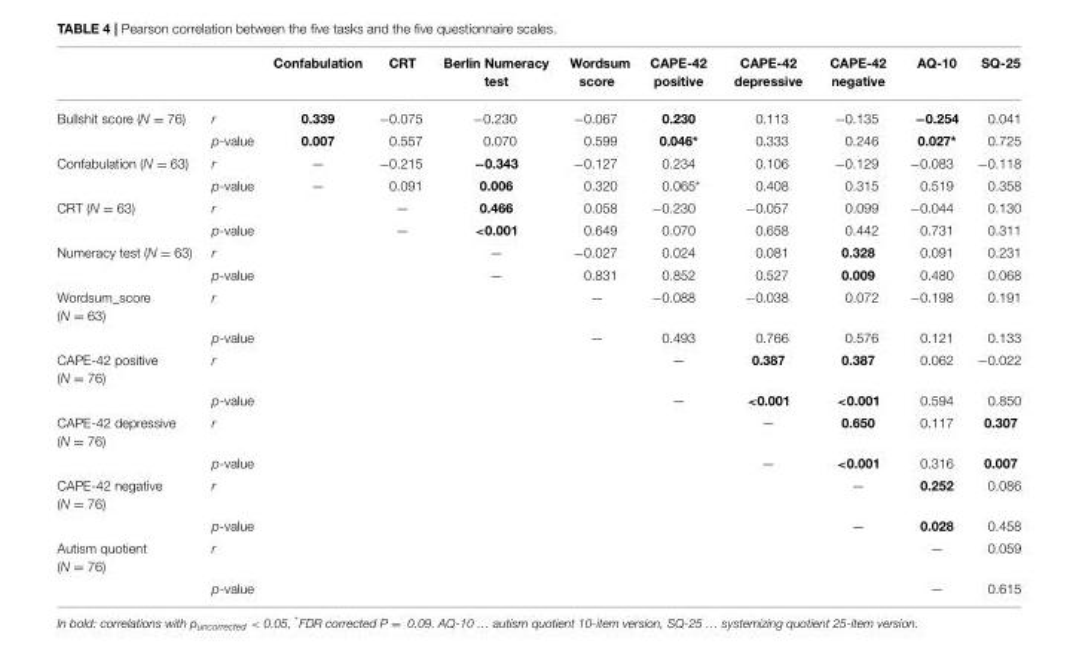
<table><thead><tr><td></td><td></td><td>Confabulation</td><td>CRT</td><td>Berlin Numeracy test</td><td>Wordsum score</td><td>CAPE-42 positive</td><td>CAPE-42 depressive</td><td>CAPE-42 negative</td><td>AQ-10</td><td>SQ-25</td></tr></thead><tbody><tr><td rowspan="2">Bullshit score (N = 76)</td><td>r</td><td>0.339</td><td>−0.075</td><td>−0.230</td><td>−0.067</td><td>0.230</td><td>0.113</td><td>−0.135</td><td>−0.254</td><td>0.041</td></tr><tr><td>p-value</td><td>0.007</td><td>0.557</td><td>0.070</td><td>0.599</td><td>0.046*</td><td>0.333</td><td>0.246</td><td>0.027*</td><td>0.725</td></tr><tr><td rowspan="2">Confabulation (N = 63)</td><td>r</td><td>—</td><td>−0.215</td><td>−0.343</td><td>−0.127</td><td>0.234</td><td>0.106</td><td>−0.129</td><td>−0.083</td><td>−0.118</td></tr><tr><td>p-value</td><td>—</td><td>0.091</td><td>0.006</td><td>0.320</td><td>0.065*</td><td>0.408</td><td>0.315</td><td>0.519</td><td>0.358</td></tr><tr><td rowspan="2">CRT (N = 63)</td><td>r</td><td></td><td>—</td><td>0.466</td><td>0.058</td><td>−0.230</td><td>−0.057</td><td>0.099</td><td>−0.044</td><td>0.130</td></tr><tr><td>p-value</td><td></td><td>—</td><td>&lt;0.001</td><td>0.649</td><td>0.070</td><td>0.658</td><td>0.442</td><td>0.731</td><td>0.311</td></tr><tr><td rowspan="2">Numeracy test (N = 63)</td><td>r</td><td></td><td></td><td>—</td><td>−0.027</td><td>0.024</td><td>0.081</td><td>0.328</td><td>0.091</td><td>0.231</td></tr><tr><td>p-value</td><td></td><td></td><td>—</td><td>0.831</td><td>0.852</td><td>0.527</td><td>0.009</td><td>0.480</td><td>0.068</td></tr><tr><td rowspan="2">Wordsum_score (N = 63)</td><td>r</td><td></td><td></td><td></td><td>—</td><td>−0.088</td><td>−0.038</td><td>0.072</td><td>−0.198</td><td>0.191</td></tr><tr><td>p-value</td><td></td><td></td><td></td><td>—</td><td>0.493</td><td>0.766</td><td>0.576</td><td>0.121</td><td>0.133</td></tr><tr><td rowspan="2">CAPE-42 positive (N = 76)</td><td>r</td><td></td><td></td><td></td><td></td><td>—</td><td>0.387</td><td>0.387</td><td>0.062</td><td>−0.022</td></tr><tr><td>p-value</td><td></td><td></td><td></td><td></td><td>—</td><td>&lt;0.001</td><td>&lt;0.001</td><td>0.594</td><td>0.850</td></tr><tr><td rowspan="2">CAPE-42 depressive (N = 76)</td><td>r</td><td></td><td></td><td></td><td></td><td></td><td>—</td><td>0.650</td><td>0.117</td><td>0.307</td></tr><tr><td>p-value</td><td></td><td></td><td></td><td></td><td></td><td>—</td><td>&lt;0.001</td><td>0.316</td><td>0.007</td></tr><tr><td rowspan="2">CAPE-42 negative (N = 76)</td><td>r</td><td></td><td></td><td></td><td></td><td></td><td></td><td>—</td><td>0.252</td><td>0.086</td></tr><tr><td>p-value</td><td></td><td></td><td></td><td></td><td></td><td></td><td>—</td><td>0.028</td><td>0.458</td></tr><tr><td rowspan="2">Autism quotient (N = 76)</td><td>r</td><td></td><td></td><td></td><td></td><td></td><td></td><td></td><td>—</td><td>0.059</td></tr><tr><td>p-value</td><td></td><td></td><td></td><td></td><td></td><td></td><td></td><td>—</td><td>0.615</td></tr></tbody></table>